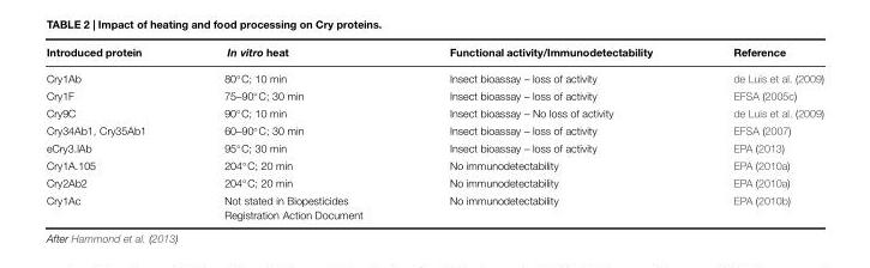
<table><thead><tr><td>Introduced protein</td><td>In vitro heat</td><td>Functional activity/Immunodetectability</td><td>Reference</td></tr></thead><tbody><tr><td>Cry1Ab</td><td>80◦C; 10 min</td><td>Insect bioassay – loss of activity</td><td>de Luis et al. (2009)</td></tr><tr><td>Cry1F</td><td>75–90◦C; 30 min</td><td>Insect bioassay – loss of activity</td><td>EFSA (2005c)</td></tr><tr><td>Cry9C</td><td>90◦C; 10 min</td><td>Insect bioassay – No loss of activity</td><td>de Luis et al. (2009)</td></tr><tr><td>Cry34Ab1, Cry35Ab1</td><td>60–90◦C; 30 min</td><td>Insect bioassay – loss of activity</td><td>EFSA (2007)</td></tr><tr><td>eCry3.lAb</td><td>95◦C; 30 min</td><td>Insect bioassay – loss of activity</td><td>EPA (2013)</td></tr><tr><td>Cry1A.105</td><td>204◦C; 20 min</td><td>No immunodetectability</td><td>EPA (2010a)</td></tr><tr><td>Cry2Ab2</td><td>204◦C; 20 min</td><td>No immunodetectability</td><td>EPA (2010a)</td></tr><tr><td>Cry1Ac</td><td>Not stated in Biopesticides Registration Action Document</td><td>No immunodetectability</td><td>EPA (2010b)</td></tr></tbody></table>